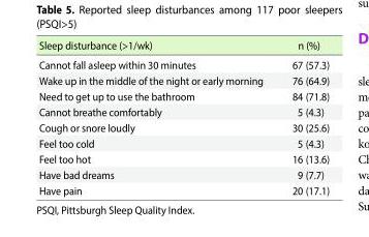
<table><thead><tr><td>Sleep disturbance (&gt;1/wk)</td><td>n (%)</td></tr></thead><tbody><tr><td>Cannot fall asleep within 30 minutes</td><td>67 (57.3)</td></tr><tr><td>Wake up in the middle of the night or early morning</td><td>76 (64.9)</td></tr><tr><td>Need to get up to use the bathroom</td><td>84 (71.8)</td></tr><tr><td>Cannot breathe comfortably</td><td>5 (4.3)</td></tr><tr><td>Cough or snore loudly</td><td>30 (25.6)</td></tr><tr><td>Feel too cold</td><td>5 (4.3)</td></tr><tr><td>Feel too hot</td><td>16 (13.6)</td></tr><tr><td>Have bad dreams</td><td>9 (7.7)</td></tr><tr><td>Have pain</td><td>20 (17.1)</td></tr></tbody></table>